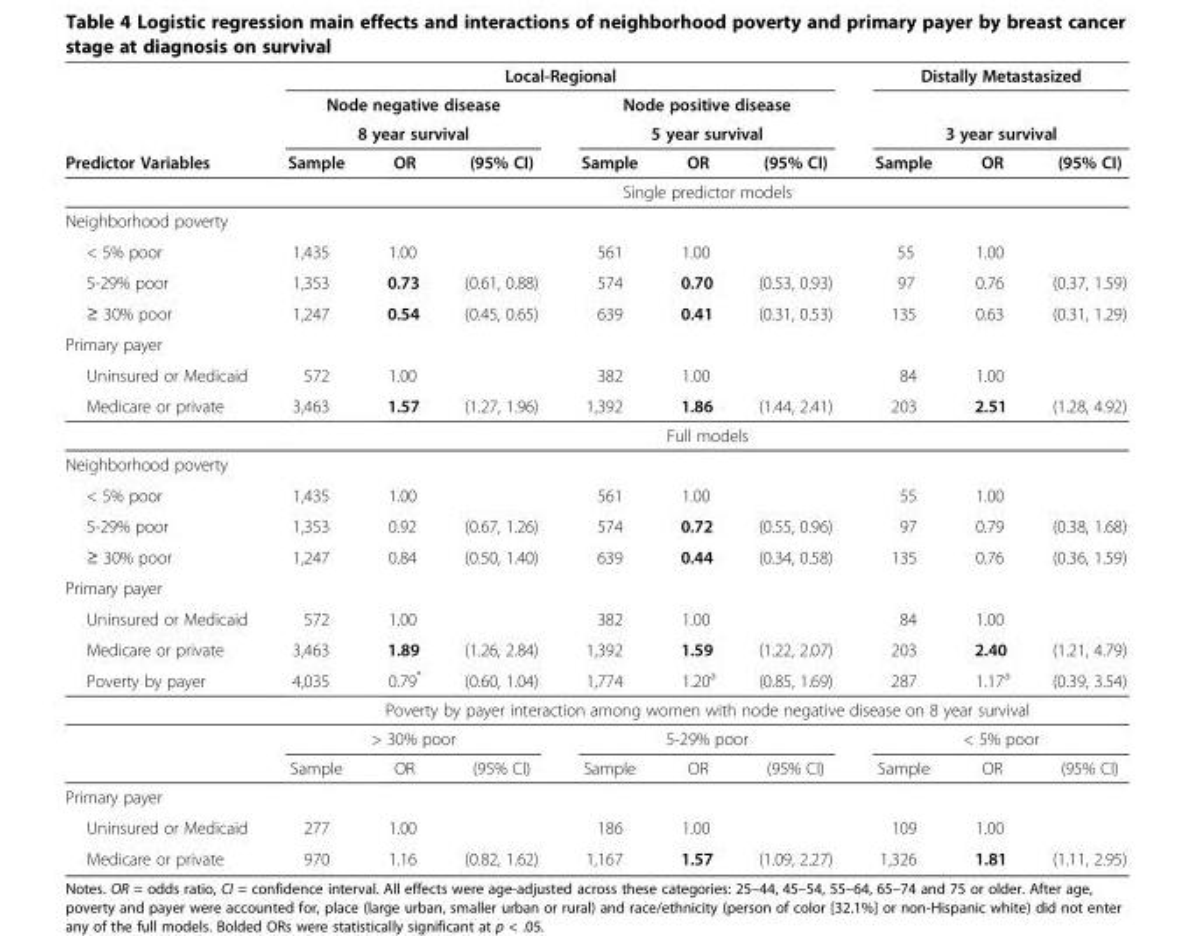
<table><thead><tr><td rowspan="4">Predictor Variables</td><td colspan="6">Local-Regional</td><td colspan="3">Distally Metastasized</td></tr><tr><td rowspan="2" colspan="3">Node negative disease 8 year survival</td><td rowspan="2" colspan="3">Node positive disease 5 year survival</td><td></td><td></td><td></td></tr><tr><td colspan="3">3 year survival</td></tr><tr><td>Sample</td><td>OR</td><td>(95% CI)</td><td>Sample</td><td>OR</td><td>(95% CI)</td><td>Sample</td><td>OR</td><td>(95% CI)</td></tr></thead><tbody><tr><td></td><td colspan="9">Single predictor models</td></tr><tr><td colspan="10">Neighborhood poverty</td></tr><tr><td>&lt; 5% poor</td><td>1,435</td><td>1.00</td><td></td><td>561</td><td>1.00</td><td></td><td>55</td><td>1.00</td><td></td></tr><tr><td>5-29% poor</td><td>1,353</td><td>0.73</td><td>(0.61, 0.88)</td><td>574</td><td>0.70</td><td>(0.53, 0.93)</td><td>97</td><td>0.76</td><td>(0.37, 1.59)</td></tr><tr><td>≥ 30% poor</td><td>1,247</td><td>0.54</td><td>(0.45, 0.65)</td><td>639</td><td>0.41</td><td>(0.31, 0.53)</td><td>135</td><td>0.63</td><td>(0.31, 1.29)</td></tr><tr><td colspan="10">Primary payer</td></tr><tr><td>Uninsured or Medicaid</td><td>572</td><td>1.00</td><td></td><td>382</td><td>1.00</td><td></td><td>84</td><td>1.00</td><td></td></tr><tr><td rowspan="2">Medicare or private</td><td>3,463</td><td>1.57</td><td>(1.27, 1.96)</td><td>1,392</td><td>1.86</td><td>(1.44, 2.41)</td><td>203</td><td>2.51</td><td>(1.28, 4.92)</td></tr><tr><td colspan="9">Full models</td></tr><tr><td colspan="10">Neighborhood poverty</td></tr><tr><td>&lt; 5% poor</td><td>1,435</td><td>1.00</td><td></td><td>561</td><td>1.00</td><td></td><td>55</td><td>1.00</td><td></td></tr><tr><td>5-29% poor</td><td>1,353</td><td>0.92</td><td>(0.67, 1.26)</td><td>574</td><td>0.72</td><td>(0.55, 0.96)</td><td>97</td><td>0.79</td><td>(0.38, 1.68)</td></tr><tr><td>≥ 30% poor</td><td>1,247</td><td>0.84</td><td>(0.50, 1.40)</td><td>639</td><td>0.44</td><td>(0.34, 0.58)</td><td>135</td><td>0.76</td><td>(0.36, 1.59)</td></tr><tr><td colspan="10">Primary payer</td></tr><tr><td>Uninsured or Medicaid</td><td>572</td><td>1.00</td><td></td><td>382</td><td>1.00</td><td></td><td>84</td><td>1.00</td><td></td></tr><tr><td>Medicare or private</td><td>3,463</td><td>1.89</td><td>(1.26, 2.84)</td><td>1,392</td><td>1.59</td><td>(1.22, 2.07)</td><td>203</td><td>2.40</td><td>(1.21, 4.79)</td></tr><tr><td rowspan="4">Poverty by payer</td><td>4,035</td><td>0.79*</td><td>(0.60, 1.04)</td><td>1,774</td><td>1.20<sup>a</sup></td><td>(0.85, 1.69)</td><td>287</td><td>1.17<sup>a</sup></td><td>(0.39, 3.54)</td></tr><tr><td colspan="9">Poverty by payer interaction among women with node negative disease on 8 year survival</td></tr><tr><td colspan="3">&gt; 30% poor</td><td colspan="3">5-29% poor</td><td colspan="3">&lt; 5% poor</td></tr><tr><td>Sample</td><td>OR</td><td>(95% CI)</td><td>Sample</td><td>OR</td><td>(95% CI)</td><td>Sample</td><td>OR</td><td>(95% CI)</td></tr><tr><td colspan="10">Primary payer</td></tr><tr><td>Uninsured or Medicaid</td><td>277</td><td>1.00</td><td></td><td>186</td><td>1.00</td><td></td><td>109</td><td>1.00</td><td></td></tr><tr><td>Medicare or private</td><td>970</td><td>1.16</td><td>(0.82, 1.62)</td><td>1,167</td><td>1.57</td><td>(1.09, 2.27)</td><td>1,326</td><td>1.81</td><td>(1.11, 2.95)</td></tr></tbody></table>